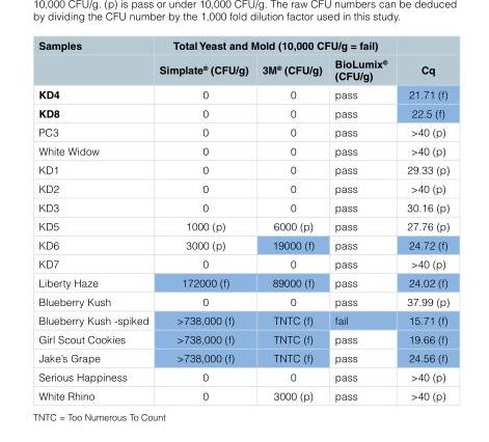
<table><thead><tr><td rowspan="2">Samples</td><td colspan="3">Total Yeast and Mold (10,000 CFU/g = fail)</td><td rowspan="2">Cq</td></tr><tr><td>Simplate<sup>®</sup> (CFU/g)</td><td>3M<sup>®</sup> (CFU/g)</td><td>BioLumix<sup>®</sup> (CFU/g)</td></tr></thead><tbody><tr><td>KD4</td><td>0</td><td>0</td><td>pass</td><td>21.71 (f)</td></tr><tr><td>KD8</td><td>0</td><td>0</td><td>pass</td><td>22.5 (f)</td></tr><tr><td>PC3</td><td>0</td><td>0</td><td>pass</td><td>&gt;40 (p)</td></tr><tr><td>White Widow</td><td>0</td><td>0</td><td>pass</td><td>&gt;40 (p)</td></tr><tr><td>KD1</td><td>0</td><td>0</td><td>pass</td><td>29.33 (p)</td></tr><tr><td>KD2</td><td>0</td><td>0</td><td>pass</td><td>&gt;40 (p)</td></tr><tr><td>KD3</td><td>0</td><td>0</td><td>pass</td><td>30.16 (p)</td></tr><tr><td>KD5</td><td>1000 (p)</td><td>6000 (p)</td><td>pass</td><td>27.76 (p)</td></tr><tr><td>KD6</td><td>3000 (p)</td><td>19000 (f)</td><td>pass</td><td>24.72 (f)</td></tr><tr><td>KD7</td><td>0</td><td>0</td><td>pass</td><td>&gt;40 (p)</td></tr><tr><td>Liberty Haze</td><td>172000 (f)</td><td>89000 (f)</td><td>pass</td><td>24.02 (f)</td></tr><tr><td>Blueberry Kush</td><td>0</td><td>0</td><td>pass</td><td>37.99 (p)</td></tr><tr><td>Blueberry Kush -spiked</td><td>&gt;738,000 (f)</td><td>TNTC (f)</td><td>fail</td><td>15.71 (f)</td></tr><tr><td>Girl Scout Cookies</td><td>&gt;738,000 (f)</td><td>TNTC (f)</td><td>pass</td><td>19.66 (f)</td></tr><tr><td>Jake’s Grape</td><td>&gt;738,000 (f)</td><td>TNTC (f)</td><td>pass</td><td>24.56 (f)</td></tr><tr><td>Serious Happiness</td><td>0</td><td>0</td><td>pass</td><td>&gt;40 (p)</td></tr><tr><td>White Rhino</td><td>0</td><td>3000 (p)</td><td>pass</td><td>&gt;40 (p)</td></tr></tbody></table>